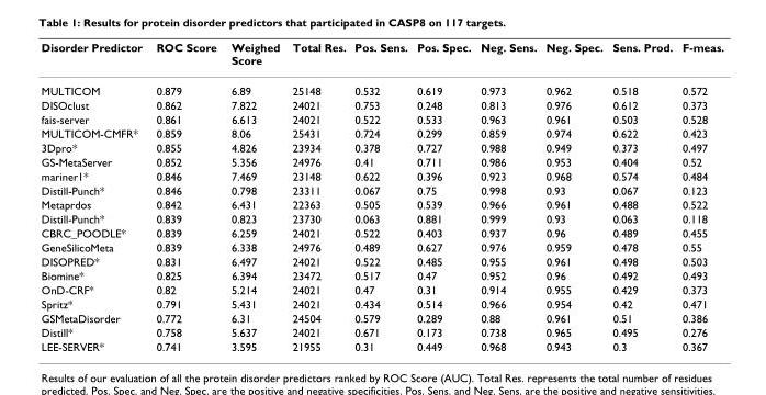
<table><thead><tr><td>Disorder Predictor</td><td>ROC Score</td><td>Weighed Score</td><td>Total Res.</td><td>Pos. Sens.</td><td>Pos. Spec.</td><td>Neg. Sens.</td><td>Neg. Spec.</td><td>Sens. Prod.</td><td>F-meas.</td></tr></thead><tbody><tr><td>MULTICOM</td><td>0.879</td><td>6.89</td><td>25148</td><td>0.532</td><td>0.619</td><td>0.973</td><td>0.962</td><td>0.518</td><td>0.572</td></tr><tr><td>DISOclust</td><td>0.862</td><td>7.822</td><td>24021</td><td>0.753</td><td>0.248</td><td>0.813</td><td>0.976</td><td>0.612</td><td>0.373</td></tr><tr><td>fais-server</td><td>0.861</td><td>6.613</td><td>24021</td><td>0.522</td><td>0.533</td><td>0.963</td><td>0.961</td><td>0.503</td><td>0.528</td></tr><tr><td>MULTICOM-CMFR*</td><td>0.859</td><td>8.06</td><td>25431</td><td>0.724</td><td>0.299</td><td>0.859</td><td>0.974</td><td>0.622</td><td>0.423</td></tr><tr><td>3Dpro*</td><td>0.855</td><td>4.826</td><td>23934</td><td>0.378</td><td>0.727</td><td>0.988</td><td>0.949</td><td>0.373</td><td>0.497</td></tr><tr><td>GS-MetaServer</td><td>0.852</td><td>5.356</td><td>24976</td><td>0.41</td><td>0.711</td><td>0.986</td><td>0.953</td><td>0.404</td><td>0.52</td></tr><tr><td>mariner1*</td><td>0.846</td><td>7.469</td><td>23148</td><td>0.622</td><td>0.396</td><td>0.923</td><td>0.968</td><td>0.574</td><td>0.484</td></tr><tr><td>Distill-Punch*</td><td>0.846</td><td>0.798</td><td>23311</td><td>0.067</td><td>0.75</td><td>0.998</td><td>0.93</td><td>0.067</td><td>0.123</td></tr><tr><td>Metaprdos</td><td>0.842</td><td>6.431</td><td>22363</td><td>0.505</td><td>0.539</td><td>0.966</td><td>0.961</td><td>0.488</td><td>0.522</td></tr><tr><td>Distill-Punch*</td><td>0.839</td><td>0.823</td><td>23730</td><td>0.063</td><td>0.881</td><td>0.999</td><td>0.93</td><td>0.063</td><td>0.118</td></tr><tr><td>CBRC_POODLE*</td><td>0.839</td><td>6.259</td><td>24021</td><td>0.522</td><td>0.403</td><td>0.937</td><td>0.96</td><td>0.489</td><td>0.455</td></tr><tr><td>GeneSilicoMeta</td><td>0.839</td><td>6.338</td><td>24976</td><td>0.489</td><td>0.627</td><td>0.976</td><td>0.959</td><td>0.478</td><td>0.55</td></tr><tr><td>DISOPRED*</td><td>0.831</td><td>6.497</td><td>24021</td><td>0.522</td><td>0.485</td><td>0.955</td><td>0.961</td><td>0.498</td><td>0.503</td></tr><tr><td>Biomine*</td><td>0.825</td><td>6.394</td><td>23472</td><td>0.517</td><td>0.47</td><td>0.952</td><td>0.96</td><td>0.492</td><td>0.493</td></tr><tr><td>OnD-CRF*</td><td>0.82</td><td>5.214</td><td>24021</td><td>0.47</td><td>0.31</td><td>0.914</td><td>0.955</td><td>0.429</td><td>0.373</td></tr><tr><td>Spritz*</td><td>0.791</td><td>5.431</td><td>24021</td><td>0.434</td><td>0.514</td><td>0.966</td><td>0.954</td><td>0.42</td><td>0.471</td></tr><tr><td>GSMetaDisorder</td><td>0.772</td><td>6.31</td><td>24504</td><td>0.579</td><td>0.289</td><td>0.88</td><td>0.961</td><td>0.51</td><td>0.386</td></tr><tr><td>Distill*</td><td>0.758</td><td>5.637</td><td>24021</td><td>0.671</td><td>0.173</td><td>0.738</td><td>0.965</td><td>0.495</td><td>0.276</td></tr><tr><td>LEE-SERVER*</td><td>0.741</td><td>3.595</td><td>21955</td><td>0.31</td><td>0.449</td><td>0.968</td><td>0.943</td><td>0.3</td><td>0.367</td></tr></tbody></table>